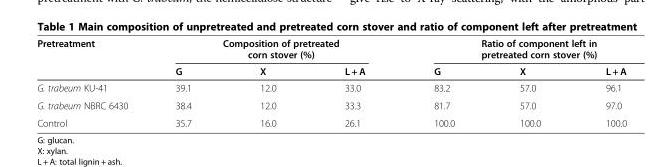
<table><thead><tr><td rowspan="2">Pretreatment</td><td colspan="3">Composition of pretreated corn stover (%)</td><td colspan="3">Ratio of component left in pretreated corn stover (%)</td></tr><tr><td>G</td><td>X</td><td>L + A</td><td>G</td><td>X</td><td>L + A</td></tr></thead><tbody><tr><td>G. trabeum KU-41</td><td>39.1</td><td>12.0</td><td>33.0</td><td>83.2</td><td>57.0</td><td>96.1</td></tr><tr><td>G. trabeum NBRC 6430</td><td>38.4</td><td>12.0</td><td>33.3</td><td>81.7</td><td>57.0</td><td>97.0</td></tr><tr><td>Control</td><td>35.7</td><td>16.0</td><td>26.1</td><td>100.0</td><td>100.0</td><td>100.0</td></tr></tbody></table>